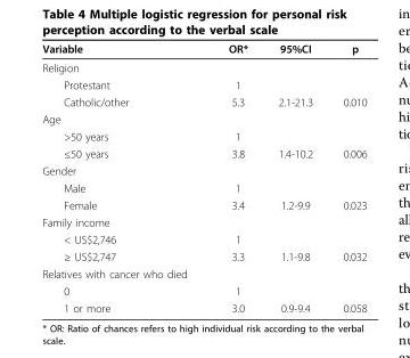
<table><thead><tr><td>Variable</td><td>OR*</td><td>95%CI</td><td>p</td></tr></thead><tbody><tr><td colspan="4">Religion</td></tr><tr><td>Protestant</td><td>1</td><td></td><td></td></tr><tr><td>Catholic/other</td><td>5.3</td><td>2.1-21.3</td><td>0.010</td></tr><tr><td colspan="4">Age</td></tr><tr><td>&gt;50 years</td><td>1</td><td></td><td></td></tr><tr><td>≤50 years</td><td>3.8</td><td>1.4-10.2</td><td>0.006</td></tr><tr><td colspan="4">Gender</td></tr><tr><td>Male</td><td>1</td><td></td><td></td></tr><tr><td>Female</td><td>3.4</td><td>1.2-9.9</td><td>0.023</td></tr><tr><td colspan="4">Family income</td></tr><tr><td>&lt; US$2,746</td><td>1</td><td></td><td></td></tr><tr><td>≥ US$2,747</td><td>3.3</td><td>1.1-9.8</td><td>0.032</td></tr><tr><td colspan="4">Relatives with cancer who died</td></tr><tr><td>0</td><td>1</td><td></td><td></td></tr><tr><td>1 or more</td><td>3.0</td><td>0.9-9.4</td><td>0.058</td></tr></tbody></table>